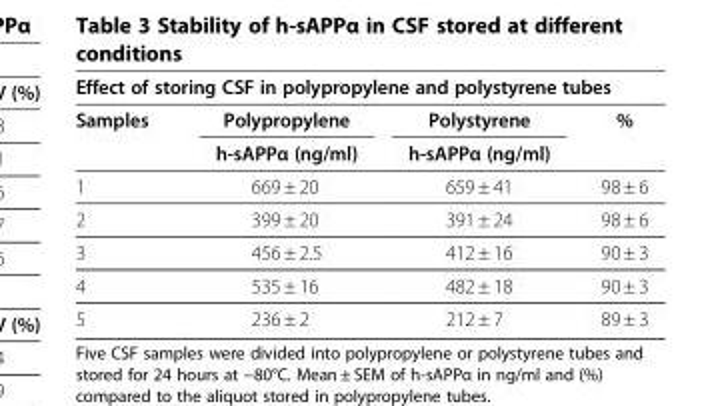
<table><thead><tr><td colspan="4">Effect of storing CSF in polypropylene and polystyrene tubes</td></tr><tr><td rowspan="2">Samples</td><td rowspan="2">Polypropylene h-sAPPα (ng/ml)</td><td rowspan="2">Polystyrene h-sAPPα (ng/ml)</td><td rowspan="2">%</td></tr><tr></tr></thead><tbody><tr><td>1</td><td>669 ± 20</td><td>659 ± 41</td><td>98 ± 6</td></tr><tr><td>2</td><td>399 ± 20</td><td>391 ± 24</td><td>98 ± 6</td></tr><tr><td>3</td><td>456 ± 2.5</td><td>412 ± 16</td><td>90 ± 3</td></tr><tr><td>4</td><td>535 ± 16</td><td>482 ± 18</td><td>90 ± 3</td></tr><tr><td>5</td><td>236 ± 2</td><td>212 ± 7</td><td>89 ± 3</td></tr></tbody></table>